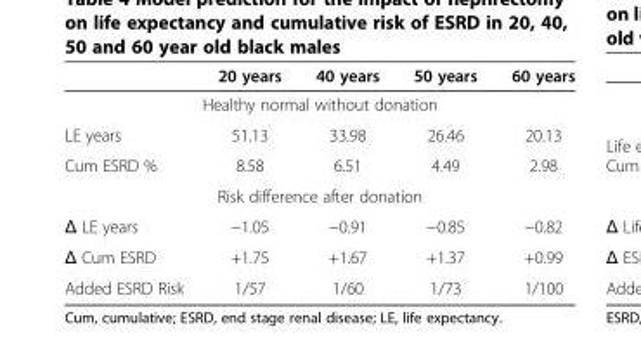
<table><thead><tr><td></td><td>20 years</td><td>40 years</td><td>50 years</td><td>60 years</td></tr></thead><tbody><tr><td colspan="5">Healthy normal without donation</td></tr><tr><td>LE years</td><td>51.13</td><td>33.98</td><td>26.46</td><td>20.13</td></tr><tr><td>Cum ESRD %</td><td>8.58</td><td>6.51</td><td>4.49</td><td>2.98</td></tr><tr><td colspan="5">Risk difference after donation</td></tr><tr><td>Δ LE years</td><td>−1.05</td><td>−0.91</td><td>−0.85</td><td>−0.82</td></tr><tr><td>Δ Cum ESRD</td><td>+1.75</td><td>+1.67</td><td>+1.37</td><td>+0.99</td></tr><tr><td>Added ESRD Risk</td><td>1/57</td><td>1/60</td><td>1/73</td><td>1/100</td></tr></tbody></table>